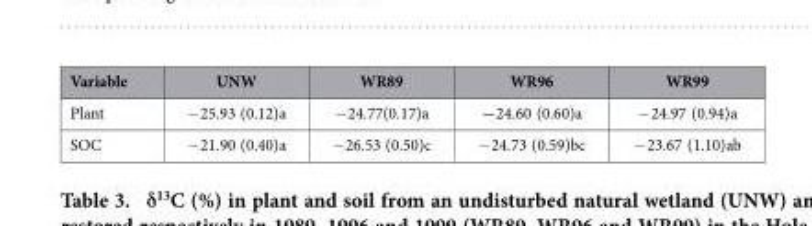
<table><thead><tr><td>Variable</td><td>UNW</td><td>WR89</td><td>WR96</td><td>WR99</td></tr></thead><tbody><tr><td>Plant</td><td>− 25.93 (0.12)a</td><td>− 24.77(0.17)a</td><td>−24.60 (0.60)a</td><td>− 24.97 (0.94)a</td></tr><tr><td>SOC</td><td>− 21.90 (0.40)a</td><td>− 26.53 (0.50)c</td><td>− 24.73 (0.59)bc</td><td>− 23.67 (1.10)ab</td></tr></tbody></table>